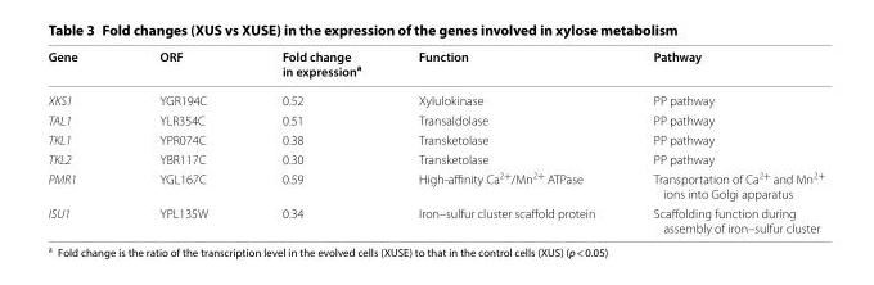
<table><thead><tr><td>Gene</td><td>ORF</td><td>Fold change in expression<sup>a</sup></td><td>Function</td><td>Pathway</td></tr></thead><tbody><tr><td>XKS1</td><td>YGR194C</td><td>0.52</td><td>Xylulokinase</td><td>PP pathway</td></tr><tr><td>TAL1</td><td>YLR354C</td><td>0.51</td><td>Transaldolase</td><td>PP pathway</td></tr><tr><td>TKL1</td><td>YPR074C</td><td>0.38</td><td>Transketolase</td><td>PP pathway</td></tr><tr><td>TKL2</td><td>YBR117C</td><td>0.30</td><td>Transketolase</td><td>PP pathway</td></tr><tr><td>PMR1</td><td>YGL167C</td><td>0.59</td><td>High‑affinity Ca<sup>2+</sup>/Mn<sup>2+</sup> ATPase</td><td>Transportation of Ca<sup>2+</sup> and Mn<sup>2+</sup> ions into Golgi apparatus</td></tr><tr><td>ISU1</td><td>YPL135W</td><td>0.34</td><td>Iron–sulfur cluster scaffold protein</td><td>Scaffolding function during assembly of iron–sulfur cluster</td></tr></tbody></table>